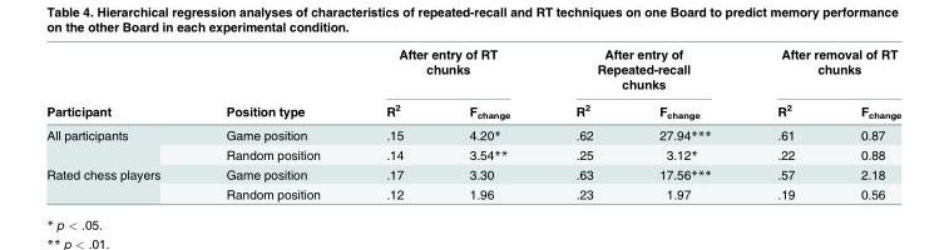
<table><thead><tr><td rowspan="2">Participant</td><td rowspan="2">Position type</td><td colspan="2">After entry of RT chunks</td><td colspan="2">After entry of Repeated-recall chunks</td><td colspan="2">After removal of RT chunks</td></tr><tr><td>R<sup>2</sup></td><td>F<sub>change</sub></td><td>R<sup>2</sup></td><td>F<sub>change</sub></td><td>R<sup>2</sup></td><td>F<sub>change</sub></td></tr></thead><tbody><tr><td rowspan="2">All participants</td><td>Game position</td><td>.15</td><td>4.20*</td><td>.62</td><td>27.94***</td><td>.61</td><td>0.87</td></tr><tr><td>Random position</td><td>.14</td><td>3.54**</td><td>.25</td><td>3.12*</td><td>.22</td><td>0.88</td></tr><tr><td rowspan="2">Rated chess players</td><td>Game position</td><td>.17</td><td>3.30</td><td>.63</td><td>17.56***</td><td>.57</td><td>2.18</td></tr><tr><td>Random position</td><td>.12</td><td>1.96</td><td>.23</td><td>1.97</td><td>.19</td><td>0.56</td></tr></tbody></table>